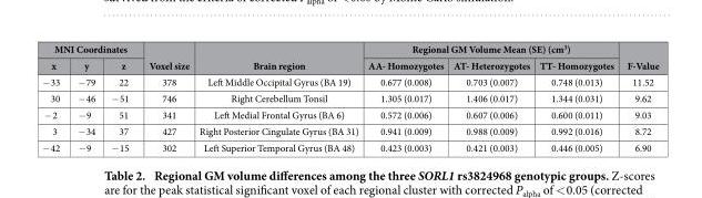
<table><thead><tr><td colspan="3">MNI Coordinates</td><td rowspan="2">Voxel size</td><td rowspan="2">Brain region</td><td colspan="3">Regional GM Volume Mean (SE) (cm<sup>3</sup>)</td><td rowspan="2">F-Value</td></tr><tr><td>x</td><td>y</td><td>z</td><td>AA- Homozygotes</td><td>AT- Heterozygotes</td><td>TT- Homozygotes</td></tr></thead><tbody><tr><td>− 33</td><td>− 79</td><td>22</td><td>378</td><td>Left Middle Occipital Gyrus (BA 19)</td><td>0.677 (0.008)</td><td>0.703 (0.007)</td><td>0.748 (0.013)</td><td>11.52</td></tr><tr><td>30</td><td>− 46</td><td>− 51</td><td>746</td><td>Right Cerebellum Tonsil</td><td>1.305 (0.017)</td><td>1.406 (0.017)</td><td>1.344 (0.031)</td><td>9.62</td></tr><tr><td>− 2</td><td>− 9</td><td>51</td><td>341</td><td>Left Medial Frontal Gyrus (BA 6)</td><td>0.572 (0.006)</td><td>0.607 (0.006)</td><td>0.600 (0.011)</td><td>9.03</td></tr><tr><td>3</td><td>− 34</td><td>37</td><td>427</td><td>Right Posterior Cingulate Gyrus (BA 31)</td><td>0.941 (0.009)</td><td>0.988 (0.009)</td><td>0.992 (0.016)</td><td>8.72</td></tr><tr><td>− 42</td><td>− 9</td><td>− 15</td><td>302</td><td>Left Superior Temporal Gyrus (BA 48)</td><td>0.423 (0.003)</td><td>0.421 (0.003)</td><td>0.446 (0.005)</td><td>6.90</td></tr></tbody></table>